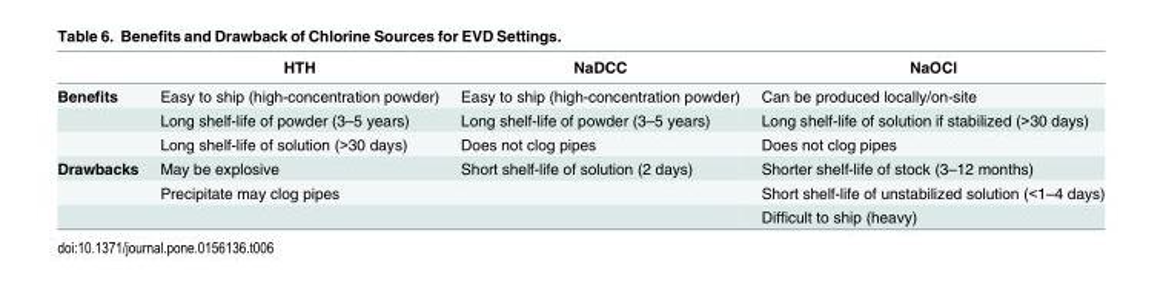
<table><thead><tr><td></td><td>HTH</td><td>NaDCC</td><td>NaOCl</td></tr></thead><tbody><tr><td rowspan="3">Benefits</td><td>Easy to ship (high-concentration powder)</td><td>Easy to ship (high-concentration powder)</td><td>Can be produced locally/on-site</td></tr><tr><td>Long shelf-life of powder (3–5 years)</td><td>Long shelf-life of powder (3–5 years)</td><td>Long shelf-life of solution if stabilized (&gt;30 days)</td></tr><tr><td>Long shelf-life of solution (&gt;30 days)</td><td>Does not clog pipes</td><td>Does not clog pipes</td></tr><tr><td rowspan="3">Drawbacks</td><td>May be explosive</td><td>Short shelf-life of solution (2 days)</td><td>Shorter shelf-life of stock (3–12 months)</td></tr><tr><td>Precipitate may clog pipes</td><td></td><td>Short shelf-life of unstabilized solution (&lt;1–4 days)</td></tr><tr><td></td><td></td><td>Difficult to ship (heavy)</td></tr></tbody></table>